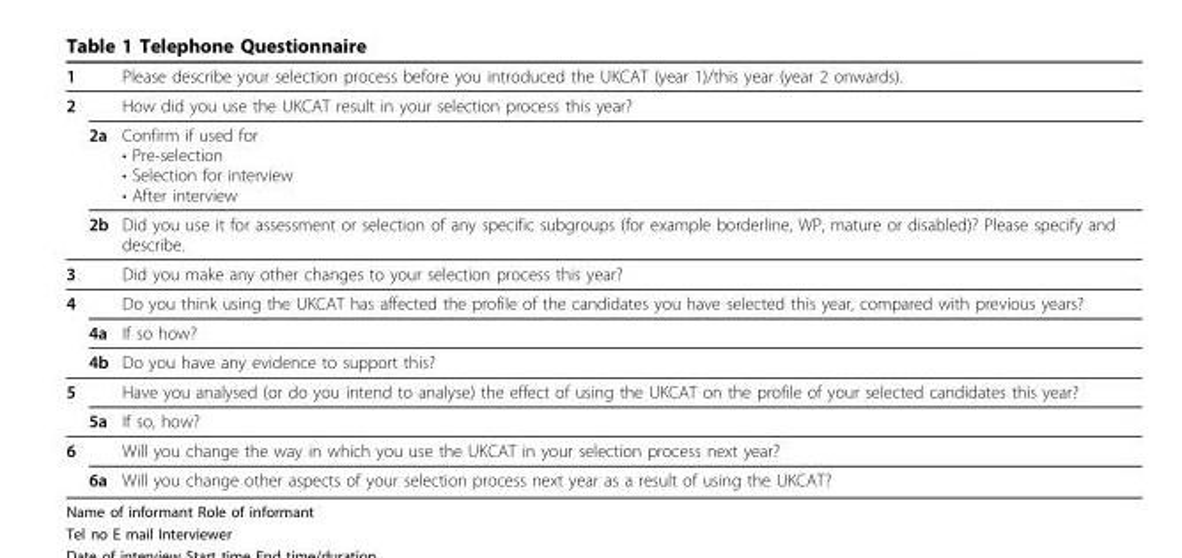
<table><thead><tr><td>1</td><td></td><td>Please describe your selection process before you introduced the UKCAT (year 1)/this year (year 2 onwards).</td></tr></thead><tbody><tr><td rowspan="3">2</td><td></td><td>How did you use the UKCAT result in your selection process this year?</td></tr><tr><td>2a</td><td>Confirm if used for • Pre-selection • Selection for interview • After interview</td></tr><tr><td>2b</td><td>Did you use it for assessment or selection of any specific subgroups (for example borderline, WP, mature or disabled)? Please specify and describe.</td></tr><tr><td>3</td><td></td><td>Did you make any other changes to your selection process this year?</td></tr><tr><td rowspan="3">4</td><td></td><td>Do you think using the UKCAT has affected the profile of the candidates you have selected this year, compared with previous years?</td></tr><tr><td>4a</td><td>If so how?</td></tr><tr><td>4b</td><td>Do you have any evidence to support this?</td></tr><tr><td rowspan="2">5</td><td></td><td>Have you analysed (or do you intend to analyse) the effect of using the UKCAT on the profile of your selected candidates this year?</td></tr><tr><td>5a</td><td>If so, how?</td></tr><tr><td rowspan="2">6</td><td></td><td>Will you change the way in which you use the UKCAT in your selection process next year?</td></tr><tr><td>6a</td><td>Will you change other aspects of your selection process next year as a result of using the UKCAT?</td></tr></tbody></table>